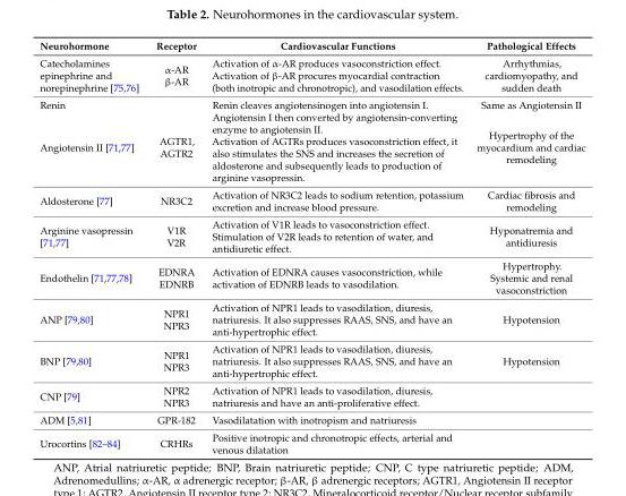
<table><thead><tr><td>Neurohormone</td><td>Receptor</td><td>Cardiovascular Functions</td><td>Pathological Effects</td></tr></thead><tbody><tr><td>Catecholamines epinephrine and norepinephrine [75,76]</td><td>α-AR β-AR</td><td>Activation of α-AR produces vasoconstriction effect. Activation of β-AR procures myocardial contraction (both inotropic and chronotropic), and vasodilation effects.</td><td>Arrhythmias, cardiomyopathy, and sudden death</td></tr><tr><td>Renin</td><td></td><td>Renin cleaves angiotensinogen into angiotensin I.</td><td>Same as Angiotensin II</td></tr><tr><td>Angiotensin II [71,77]</td><td>AGTR1, AGTR2</td><td>Angiotensin I then converted by angiotensin-converting enzyme to angiotensin II. Activation of AGTRs produces vasoconstriction effect, it also stimulates the SNS and increases the secretion of aldosterone and subsequently leads to production of arginine vasopressin.</td><td>Hypertrophy of the myocardium and cardiac remodeling</td></tr><tr><td>Aldosterone [77]</td><td>NR3C2</td><td>Activation of NR3C2 leads to sodium retention, potassium excretion and increase blood pressure.</td><td>Cardiac fibrosis and remodeling</td></tr><tr><td>Arginine vasopressin [71,77]</td><td>V1R V2R</td><td>Activation of V1R leads to vasoconstriction effect. Stimulation of V2R leads to retention of water, and antidiuretic effect.</td><td>Hyponatremia and antidiuresis</td></tr><tr><td>Endothelin [71,77,78]</td><td>EDNRA EDNRB</td><td>Activation of EDNRA causes vasoconstriction, while activation of EDNRB leads to vasodilation.</td><td>Hypertrophy. Systemic and renal vasoconstriction</td></tr><tr><td>ANP [79,80]</td><td>NPR1 NPR3</td><td>Activation of NPR1 leads to vasodilation, diuresis, natriuresis. It also suppresses RAAS, SNS, and have an anti-hypertrophic effect.</td><td>Hypotension</td></tr><tr><td>BNP [79,80]</td><td>NPR1 NPR3</td><td>Activation of NPR1 leads to vasodilation, diuresis, natriuresis. It also suppresses RAAS, SNS, and have an anti-hypertrophic effect.</td><td>Hypotension</td></tr><tr><td>CNP [79]</td><td>NPR2 NPR3</td><td>Activation of NPR1 leads to vasodilation, diuresis, natriuresis and have an anti-proliferative effect.</td><td></td></tr><tr><td>ADM [5,81]</td><td>GPR-182</td><td>Vasodilatation with inotropism and natriuresis</td><td></td></tr><tr><td>Urocortins [82–84]</td><td>CRHRs</td><td>Positive inotropic and chronotropic effects, arterial and venous dilatation</td><td></td></tr></tbody></table>